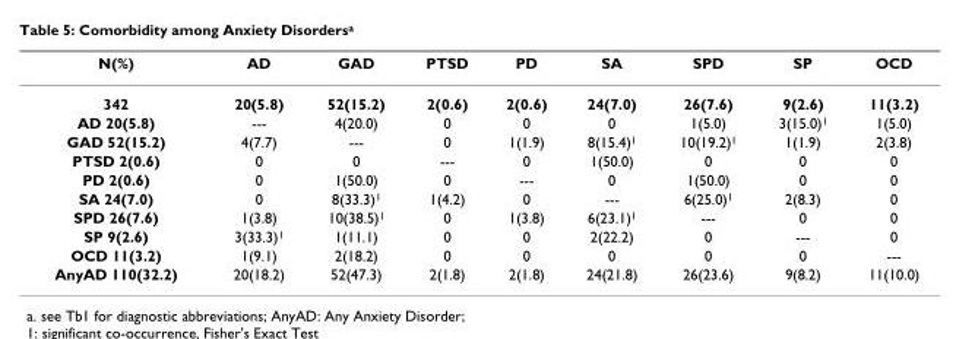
<table><thead><tr><td>N(%)</td><td>AD</td><td>GAD</td><td>PTSD</td><td>PD</td><td>SA</td><td>SPD</td><td>SP</td><td>OCD</td></tr></thead><tbody><tr><td>342</td><td>20(5.8)</td><td>52(15.2)</td><td>2(0.6)</td><td>2(0.6)</td><td>24(7.0)</td><td>26(7.6)</td><td>9(2.6)</td><td>11(3.2)</td></tr><tr><td>AD 20(5.8)</td><td>---</td><td>4(20.0)</td><td>0</td><td>0</td><td>0</td><td>1(5.0)</td><td>3(15.0)<sup>1</sup></td><td>1(5.0)</td></tr><tr><td>GAD 52(15.2)</td><td>4(7.7)</td><td>---</td><td>0</td><td>1(1.9)</td><td>8(15.4)<sup>1</sup></td><td>10(19.2)<sup>1</sup></td><td>1(1.9)</td><td>2(3.8)</td></tr><tr><td>PTSD 2(0.6)</td><td>0</td><td>0</td><td>---</td><td>0</td><td>1(50.0)</td><td>0</td><td>0</td><td>0</td></tr><tr><td>PD 2(0.6)</td><td>0</td><td>1(50.0)</td><td>0</td><td>---</td><td>0</td><td>1(50.0)</td><td>0</td><td>0</td></tr><tr><td>SA 24(7.0)</td><td>0</td><td>8(33.3)<sup>1</sup></td><td>1(4.2)</td><td>0</td><td>---</td><td>6(25.0)<sup>1</sup></td><td>2(8.3)</td><td>0</td></tr><tr><td>SPD 26(7.6)</td><td>1(3.8)</td><td>10(38.5)<sup>1</sup></td><td>0</td><td>1(3.8)</td><td>6(23.1)<sup>1</sup></td><td>---</td><td>0</td><td>0</td></tr><tr><td>SP 9(2.6)</td><td>3(33.3)<sup>1</sup></td><td>1(11.1)</td><td>0</td><td>0</td><td>2(22.2)</td><td>0</td><td>---</td><td>0</td></tr><tr><td>OCD 11(3.2)</td><td>1(9.1)</td><td>2(18.2)</td><td>0</td><td>0</td><td>0</td><td>0</td><td>0</td><td>---</td></tr><tr><td>AnyAD 110(32.2)</td><td>20(18.2)</td><td>52(47.3)</td><td>2(1.8)</td><td>2(1.8)</td><td>24(21.8)</td><td>26(23.6)</td><td>9(8.2)</td><td>11(10.0)</td></tr></tbody></table>